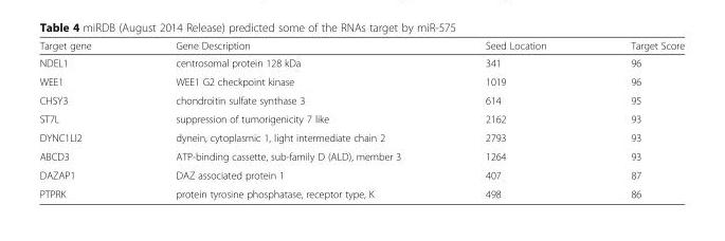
<table><thead><tr><td>Target gene</td><td>Gene Description</td><td>Seed Location</td><td>Target Score</td></tr></thead><tbody><tr><td>NDEL1</td><td>centrosomal protein 128 kDa</td><td>341</td><td>96</td></tr><tr><td>WEE1</td><td>WEE1 G2 checkpoint kinase</td><td>1019</td><td>96</td></tr><tr><td>CHSY3</td><td>chondroitin sulfate synthase 3</td><td>614</td><td>95</td></tr><tr><td>ST7L</td><td>suppression of tumorigenicity 7 like</td><td>2162</td><td>93</td></tr><tr><td>DYNC1LI2</td><td>dynein, cytoplasmic 1, light intermediate chain 2</td><td>2793</td><td>93</td></tr><tr><td>ABCD3</td><td>ATP-binding cassette, sub-family D (ALD), member 3</td><td>1264</td><td>93</td></tr><tr><td>DAZAP1</td><td>DAZ associated protein 1</td><td>407</td><td>87</td></tr><tr><td>PTPRK</td><td>protein tyrosine phosphatase, receptor type, K</td><td>498</td><td>86</td></tr></tbody></table>